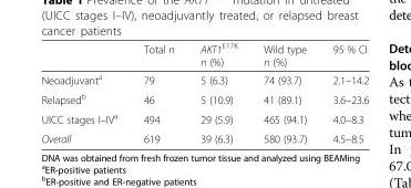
<table><thead><tr><td></td><td>Total n</td><td>AKT1<sup>E17K</sup> n (%)</td><td>Wild type n (%)</td><td>95 % CI</td></tr></thead><tbody><tr><td>Neoadjuvant<sup>a</sup></td><td>79</td><td>5 (6.3)</td><td>74 (93.7)</td><td>2.1–14.2</td></tr><tr><td>Relapsed<sup>b</sup></td><td>46</td><td>5 (10.9)</td><td>41 (89.1)</td><td>3.6–23.6</td></tr><tr><td>UICC stages I–IV<sup>a</sup></td><td>494</td><td>29 (5.9)</td><td>465 (94.1)</td><td>4.0–8.3</td></tr><tr><td>Overall</td><td>619</td><td>39 (6.3)</td><td>580 (93.7)</td><td>4.5–8.5</td></tr></tbody></table>